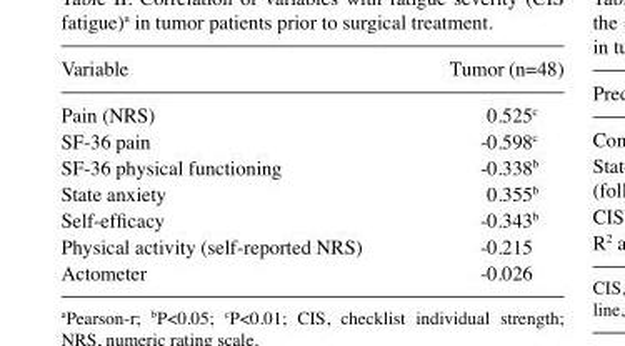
<table><thead><tr><td>Variable</td><td>Tumor (n=48)</td></tr></thead><tbody><tr><td>Pain (NRS)</td><td>0.525<sup>c</sup></td></tr><tr><td>SF-36 pain</td><td>-0.598<sup>c</sup></td></tr><tr><td>SF-36 physical functioning</td><td>-0.338<sup>b</sup></td></tr><tr><td>State anxiety</td><td>0.355<sup>b</sup></td></tr><tr><td>Self‑efficacy</td><td>‑0.343<sup>b</sup></td></tr><tr><td>Physical activity (self-reported NRS)</td><td>-0.215</td></tr><tr><td>Actometer</td><td>-0.026</td></tr></tbody></table>